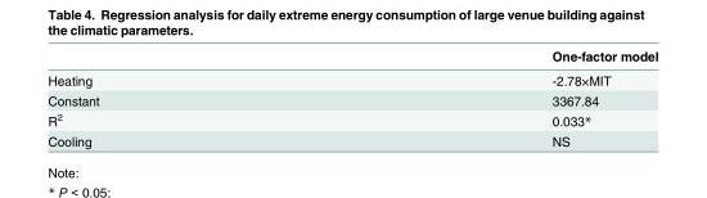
<table><thead><tr><td></td><td>One-factor model</td></tr></thead><tbody><tr><td>Heating</td><td>-2.78×MIT</td></tr><tr><td>Constant</td><td>3367.84</td></tr><tr><td>R<sup>2</sup></td><td>0.033*</td></tr><tr><td>Cooling</td><td>NS</td></tr></tbody></table>